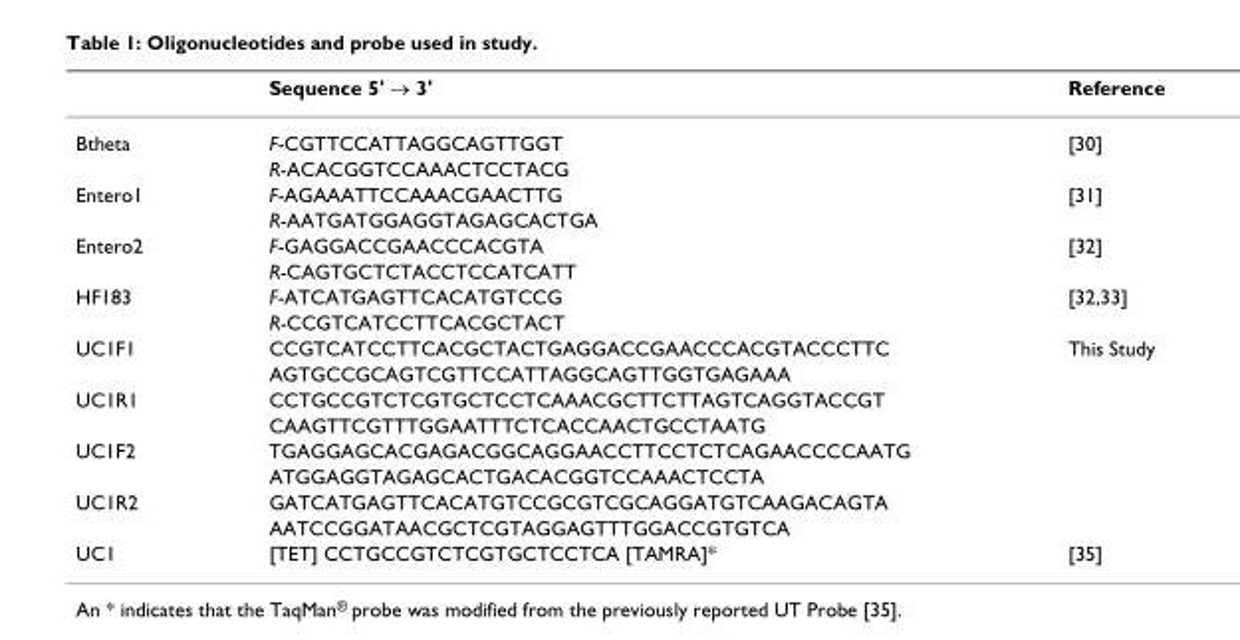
<table><thead><tr><td></td><td>Sequence 5&#x27; → 3&#x27;</td><td>Reference</td></tr></thead><tbody><tr><td rowspan="2">Btheta</td><td>F-CGTTCCATTAGGCAGTTGGT</td><td>[30]</td></tr><tr><td>R-ACACGGTCCAAACTCCTACG</td><td></td></tr><tr><td rowspan="2">Entero1</td><td>F-AGAAATTCCAAACGAACTTG</td><td>[31]</td></tr><tr><td>R-AATGATGGAGGTAGAGCACTGA</td><td></td></tr><tr><td rowspan="2">Entero2</td><td>F-GAGGACCGAACCCACGTA</td><td>[32]</td></tr><tr><td>R-CAGTGCTCTACCTCCATCATT</td><td></td></tr><tr><td rowspan="2">HF183</td><td>F-ATCATGAGTTCACATGTCCG</td><td>[32,33]</td></tr><tr><td>R-CCGTCATCCTTCACGCTACT</td><td></td></tr><tr><td rowspan="2">UC1F1</td><td>CCGTCATCCTTCACGCTACTGAGGACCGAACCCACGTACCCTTC</td><td>This Study</td></tr><tr><td>AGTGCCGCAGTCGTTCCATTAGGCAGTTGGTGAGAAA</td><td></td></tr><tr><td rowspan="2">UC1R1</td><td>CCTGCCGTCTCGTGCTCCTCAAACGCTTCTTAGTCAGGTACCGT</td><td></td></tr><tr><td>CAAGTTCGTTTGGAATTTCTCACCAACTGCCTAATG</td><td></td></tr><tr><td rowspan="2">UC1F2</td><td>TGAGGAGCACGAGACGGCAGGAACCTTCCTCTCAGAACCCCAATG</td><td></td></tr><tr><td>ATGGAGGTAGAGCACTGACACGGTCCAAACTCCTA</td><td></td></tr><tr><td rowspan="2">UC1R2</td><td>GATCATGAGTTCACATGTCCGCGTCGCAGGATGTCAAGACAGTA</td><td></td></tr><tr><td>AATCCGGATAACGCTCGTAGGAGTTTGGACCGTGTCA</td><td></td></tr><tr><td>UC1</td><td>[TET] CCTGCCGTCTCGTGCTCCTCA [TAMRA]*</td><td>[35]</td></tr></tbody></table>